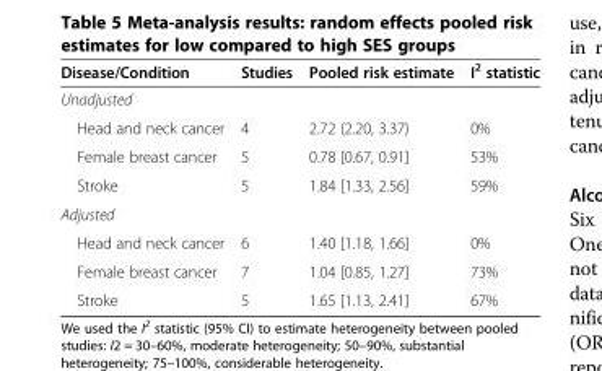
<table><thead><tr><td>Disease/Condition</td><td>Studies</td><td>Pooled risk estimate</td><td>I<sup>2</sup> statistic</td></tr></thead><tbody><tr><td colspan="4">Unadjusted</td></tr><tr><td>Head and neck cancer</td><td>4</td><td>2.72 (2.20, 3.37)</td><td>0%</td></tr><tr><td>Female breast cancer</td><td>5</td><td>0.78 [0.67, 0.91]</td><td>53%</td></tr><tr><td>Stroke</td><td>5</td><td>1.84 [1.33, 2.56]</td><td>59%</td></tr><tr><td colspan="4">Adjusted</td></tr><tr><td>Head and neck cancer</td><td>6</td><td>1.40 [1.18, 1.66]</td><td>0%</td></tr><tr><td>Female breast cancer</td><td>7</td><td>1.04 [0.85, 1.27]</td><td>73%</td></tr><tr><td>Stroke</td><td>5</td><td>1.65 [1.13, 2.41]</td><td>67%</td></tr></tbody></table>